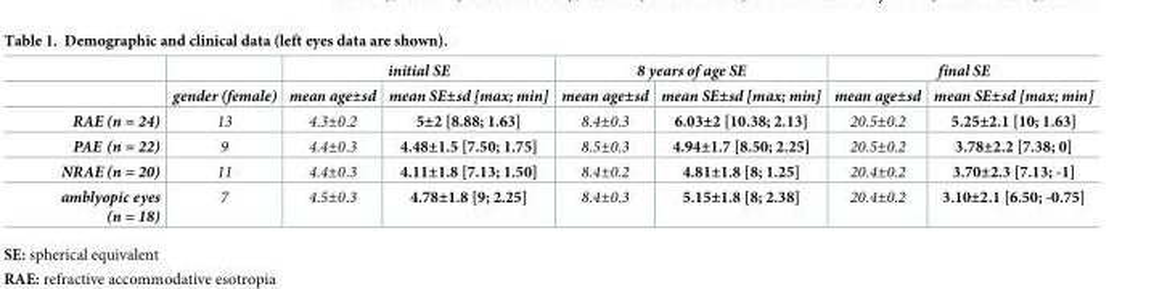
<table><thead><tr><td rowspan="2"></td><td rowspan="2">gender (female)</td><td colspan="2">initial SE</td><td colspan="2">8 years of age SE</td><td colspan="2">final SE</td></tr><tr><td>mean age±sd</td><td>mean SE±sd [max; min]</td><td>mean age±sd</td><td>mean SE±sd [max; min]</td><td>mean age±sd</td><td>mean SE±sd [max; min]</td></tr></thead><tbody><tr><td>RAE (n = 24)</td><td>13</td><td>4.3±0.2</td><td>5±2 [8.88; 1.63]</td><td>8.4±0.3</td><td>6.03±2 [10.38; 2.13]</td><td>20.5±0.2</td><td>5.25±2.1 [10; 1.63]</td></tr><tr><td>PAE (n = 22)</td><td>9</td><td>4.4±0.3</td><td>4.48±1.5 [7.50; 1.75]</td><td>8.5±0.3</td><td>4.94±1.7 [8.50; 2.25]</td><td>20.5±0.2</td><td>3.78±2.2 [7.38; 0]</td></tr><tr><td>NRAE (n = 20)</td><td>11</td><td>4.4±0.3</td><td>4.11±1.8 [7.13; 1.50]</td><td>8.4±0.2</td><td>4.81±1.8 [8; 1.25]</td><td>20.4±0.2</td><td>3.70±2.3 [7.13; -1]</td></tr><tr><td>amblyopic eyes (n = 18)</td><td>7</td><td>4.5±0.3</td><td>4.78±1.8 [9; 2.25]</td><td>8.4±0.3</td><td>5.15±1.8 [8; 2.38]</td><td>20.4±0.2</td><td>3.10±2.1 [6.50; -0.75]</td></tr></tbody></table>